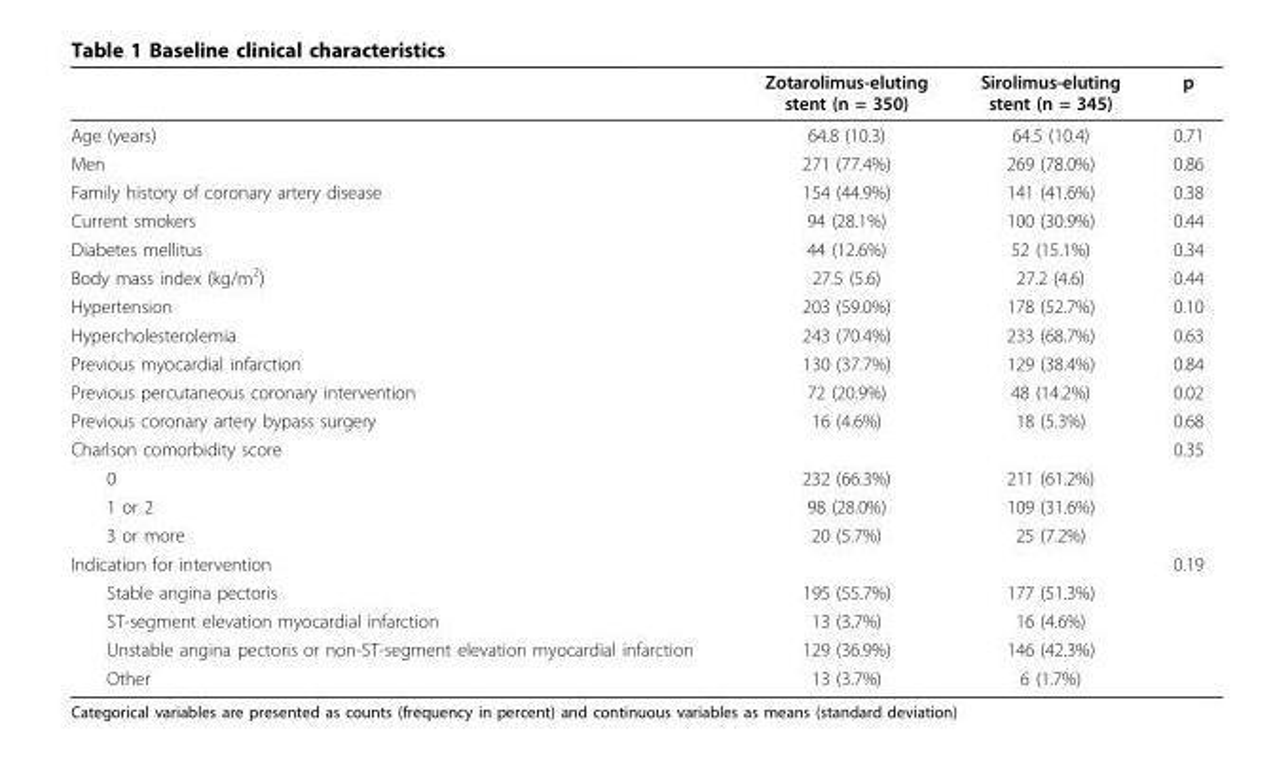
<table><thead><tr><td></td><td>Zotarolimus-eluting stent (n = 350)</td><td>Sirolimus-eluting stent (n = 345)</td><td>p</td></tr></thead><tbody><tr><td>Age (years)</td><td>64.8 (10.3)</td><td>64.5 (10.4)</td><td>0.71</td></tr><tr><td>Men</td><td>271 (77.4%)</td><td>269 (78.0%)</td><td>0.86</td></tr><tr><td>Family history of coronary artery disease</td><td>154 (44.9%)</td><td>141 (41.6%)</td><td>0.38</td></tr><tr><td>Current smokers</td><td>94 (28.1%)</td><td>100 (30.9%)</td><td>0.44</td></tr><tr><td>Diabetes mellitus</td><td>44 (12.6%)</td><td>52 (15.1%)</td><td>0.34</td></tr><tr><td>Body mass index (kg/m<sup>2</sup>)</td><td>27.5 (5.6)</td><td>27.2 (4.6)</td><td>0.44</td></tr><tr><td>Hypertension</td><td>203 (59.0%)</td><td>178 (52.7%)</td><td>0.10</td></tr><tr><td>Hypercholesterolemia</td><td>243 (70.4%)</td><td>233 (68.7%)</td><td>0.63</td></tr><tr><td>Previous myocardial infarction</td><td>130 (37.7%)</td><td>129 (38.4%)</td><td>0.84</td></tr><tr><td>Previous percutaneous coronary intervention</td><td>72 (20.9%)</td><td>48 (14.2%)</td><td>0.02</td></tr><tr><td>Previous coronary artery bypass surgery</td><td>16 (4.6%)</td><td>18 (5.3%)</td><td>0.68</td></tr><tr><td>Charlson comorbidity score</td><td></td><td></td><td>0.35</td></tr><tr><td>0</td><td>232 (66.3%)</td><td>211 (61.2%)</td><td></td></tr><tr><td>1 or 2</td><td>98 (28.0%)</td><td>109 (31.6%)</td><td></td></tr><tr><td>3 or more</td><td>20 (5.7%)</td><td>25 (7.2%)</td><td></td></tr><tr><td>Indication for intervention</td><td></td><td></td><td>0.19</td></tr><tr><td>Stable angina pectoris</td><td>195 (55.7%)</td><td>177 (51.3%)</td><td></td></tr><tr><td>ST-segment elevation myocardial infarction</td><td>13 (3.7%)</td><td>16 (4.6%)</td><td></td></tr><tr><td>Unstable angina pectoris or non-ST-segment elevation myocardial infarction</td><td>129 (36.9%)</td><td>146 (42.3%)</td><td></td></tr><tr><td>Other</td><td>13 (3.7%)</td><td>6 (1.7%)</td><td></td></tr></tbody></table>